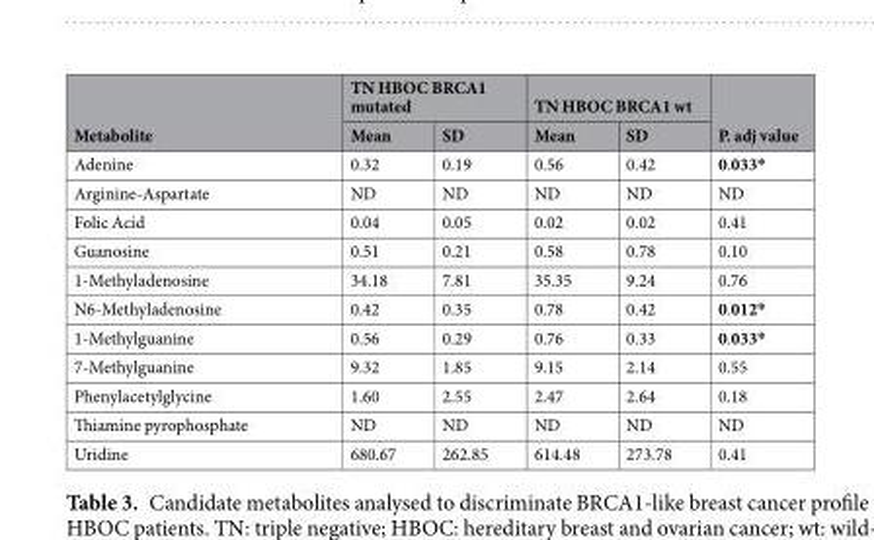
<table><thead><tr><td rowspan="2">Metabolite</td><td colspan="2">TN HBOC BRCA1 mutated</td><td colspan="2">TN HBOC BRCA1 wt</td><td rowspan="2">P. adj value</td></tr><tr><td>Mean</td><td>SD</td><td>Mean</td><td>SD</td></tr></thead><tbody><tr><td>Adenine</td><td>0.32</td><td>0.19</td><td>0.56</td><td>0.42</td><td>0.033*</td></tr><tr><td>Arginine-Aspartate</td><td>ND</td><td>ND</td><td>ND</td><td>ND</td><td>ND</td></tr><tr><td>Folic Acid</td><td>0.04</td><td>0.05</td><td>0.02</td><td>0.02</td><td>0.41</td></tr><tr><td>Guanosine</td><td>0.51</td><td>0.21</td><td>0.58</td><td>0.78</td><td>0.10</td></tr><tr><td>1-Methyladenosine</td><td>34.18</td><td>7.81</td><td>35.35</td><td>9.24</td><td>0.76</td></tr><tr><td>N6-Methyladenosine</td><td>0.42</td><td>0.35</td><td>0.78</td><td>0.42</td><td>0.012*</td></tr><tr><td>1-Methylguanine</td><td>0.56</td><td>0.29</td><td>0.76</td><td>0.33</td><td>0.033*</td></tr><tr><td>7-Methylguanine</td><td>9.32</td><td>1.85</td><td>9.15</td><td>2.14</td><td>0.55</td></tr><tr><td>Phenylacetylglycine</td><td>1.60</td><td>2.55</td><td>2.47</td><td>2.64</td><td>0.18</td></tr><tr><td>Thiamine pyrophosphate</td><td>ND</td><td>ND</td><td>ND</td><td>ND</td><td>ND</td></tr><tr><td>Uridine</td><td>680.67</td><td>262.85</td><td>614.48</td><td>273.78</td><td>0.41</td></tr></tbody></table>